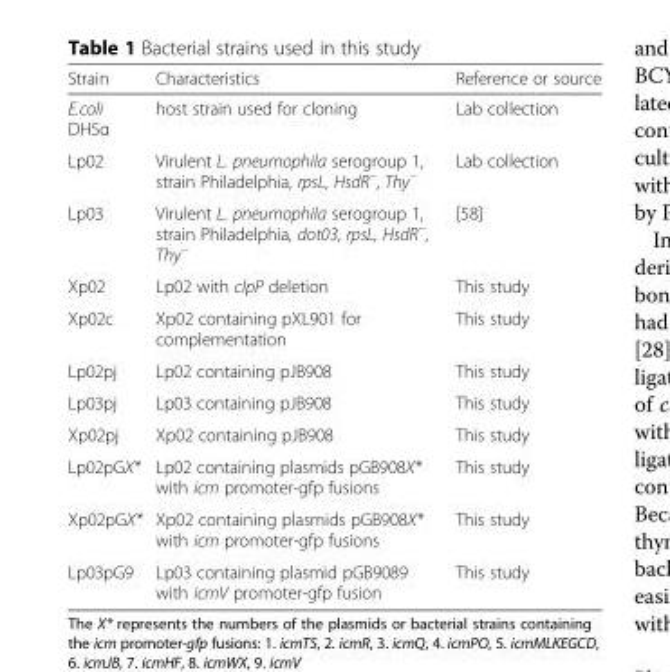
<table><thead><tr><td>Strain</td><td>Characteristics</td><td>Reference or source</td></tr></thead><tbody><tr><td>E.coli DH5α</td><td>host strain used for cloning</td><td>Lab collection</td></tr><tr><td>Lp02</td><td>Virulent L. pneumophila serogroup 1, strain Philadelphia, rpsL, HsdR<sup>−</sup>, Thy<sup>−</sup></td><td>Lab collection</td></tr><tr><td>Lp03</td><td>Virulent L. pneumophila serogroup 1, strain Philadelphia, dot03, rpsL, HsdR<sup>−</sup>, Thy<sup>−</sup></td><td>[58]</td></tr><tr><td>Xp02</td><td>Lp02 with clpP deletion</td><td>This study</td></tr><tr><td>Xp02c</td><td>Xp02 containing pXL901 for complementation</td><td>This study</td></tr><tr><td>Lp02pj</td><td>Lp02 containing pJB908</td><td>This study</td></tr><tr><td>Lp03pj</td><td>Lp03 containing pJB908</td><td>This study</td></tr><tr><td>Xp02pj</td><td>Xp02 containing pJB908</td><td>This study</td></tr><tr><td>Lp02pGX*</td><td>Lp02 containing plasmids pGB908X* with icm promoter-gfp fusions</td><td>This study</td></tr><tr><td>Xp02pGX*</td><td>Xp02 containing plasmids pGB908X* with icm promoter-gfp fusions</td><td>This study</td></tr><tr><td>Lp03pG9</td><td>Lp03 containing plasmid pGB9089 with icmV promoter-gfp fusion</td><td>This study</td></tr></tbody></table>